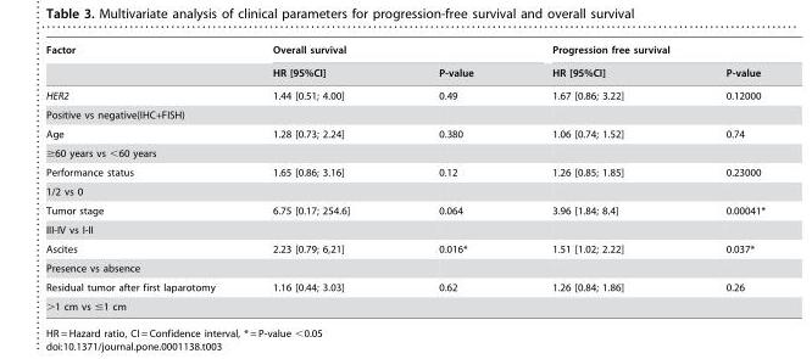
<table><thead><tr><td rowspan="2">Factor</td><td colspan="2">Overall survival</td><td colspan="2">Progression free survival</td></tr><tr><td>HR [95%CI]</td><td>P-value</td><td>HR [95%CI]</td><td>P-value</td></tr></thead><tbody><tr><td>HER2</td><td>1.44 [0.51; 4.00]</td><td>0.49</td><td>1.67 [0.86; 3.22]</td><td>0.12000</td></tr><tr><td colspan="5">Positive vs negative(IHC+FISH)</td></tr><tr><td>Age</td><td>1.28 [0.73; 2.24]</td><td>0.380</td><td>1.06 [0.74; 1.52]</td><td>0.74</td></tr><tr><td colspan="5">≥60 years vs &lt;60 years</td></tr><tr><td>Performance status</td><td>1.65 [0.86; 3.16]</td><td>0.12</td><td>1.26 [0.85; 1.85]</td><td>0.23000</td></tr><tr><td colspan="5">1/2 vs 0</td></tr><tr><td>Tumor stage</td><td>6.75 [0.17; 254.6]</td><td>0.064</td><td>3.96 [1.84; 8.4]</td><td>0.00041*</td></tr><tr><td colspan="5">III-IV vs I-II</td></tr><tr><td>Ascites</td><td>2.23 [0.79; 6,21]</td><td>0.016*</td><td>1.51 [1.02; 2.22]</td><td>0.037*</td></tr><tr><td colspan="5">Presence vs absence</td></tr><tr><td>Residual tumor after first laparotomy</td><td>1.16 [0.44; 3.03]</td><td>0.62</td><td>1.26 [0.84; 1.86]</td><td>0.26</td></tr><tr><td>&gt;1 cm vs ≤1 cm</td><td></td><td></td><td></td><td></td></tr></tbody></table>